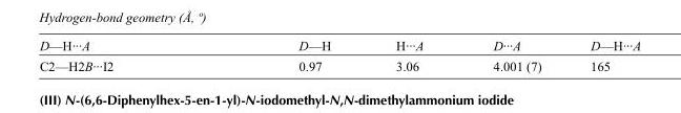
<table><tbody><tr><td>D—H···A</td><td>D—H</td><td>H···A</td><td>D···A</td><td>D—H···A</td></tr><tr><td>C2—H2B···I2</td><td>0.97</td><td>3.06</td><td>4.001 (7)</td><td>165</td></tr></tbody></table>